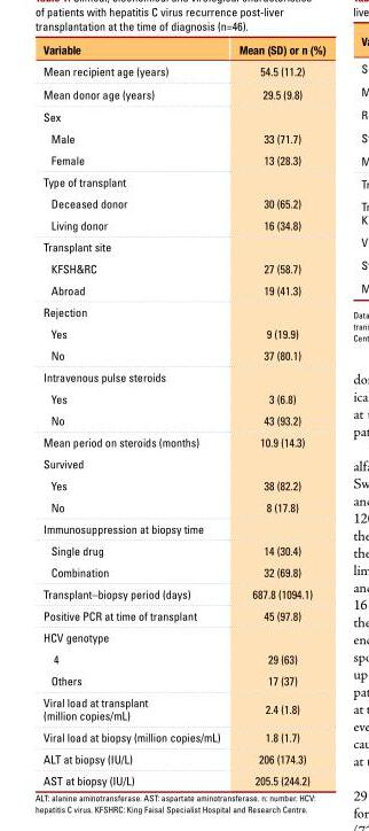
<table><thead><tr><td>Variable</td><td>Mean (SD) or n (%)</td></tr></thead><tbody><tr><td>Mean recipient age (years)</td><td>54.5 (11.2)</td></tr><tr><td>Mean donor age (years)</td><td>29.5 (9.8)</td></tr><tr><td colspan="2">Sex</td></tr><tr><td>Male</td><td>33 (71.7)</td></tr><tr><td>Female</td><td>13 (28.3)</td></tr><tr><td colspan="2">type of transplant</td></tr><tr><td>Deceased donor</td><td>30 (65.2)</td></tr><tr><td>Living donor</td><td>16 (34.8)</td></tr><tr><td colspan="2">transplant site</td></tr><tr><td>KFSh&amp;Rc</td><td>27 (58.7)</td></tr><tr><td>Abroad</td><td>19 (41.3)</td></tr><tr><td colspan="2">Rejection</td></tr><tr><td>yes</td><td>9 (19.9)</td></tr><tr><td>no</td><td>37 (80.1)</td></tr><tr><td colspan="2">Intravenous pulse steroids</td></tr><tr><td>yes</td><td>3 (6.8)</td></tr><tr><td>no</td><td>43 (93.2)</td></tr><tr><td>Mean period on steroids (months)</td><td>10.9 (14.3)</td></tr><tr><td colspan="2">Survived</td></tr><tr><td>yes</td><td>38 (82.2)</td></tr><tr><td>no</td><td>8 (17.8)</td></tr><tr><td colspan="2">Immunosuppression at biopsy time</td></tr><tr><td>Single drug</td><td>14 (30.4)</td></tr><tr><td>combination</td><td>32 (69.8)</td></tr><tr><td>transplant–biopsy period (days)</td><td>687.8 (1094.1)</td></tr><tr><td>positive pcR at time of transplant</td><td>45 (97.8)</td></tr><tr><td colspan="2">hcv genotype</td></tr><tr><td>4</td><td>29 (63)</td></tr><tr><td>others</td><td>17 (37)</td></tr><tr><td>viral load at transplant (million copies/mL)</td><td>2.4 (1.8)</td></tr><tr><td>viral load at biopsy (million copies/mL)</td><td>1.8 (1.7)</td></tr><tr><td>ALt at biopsy (IU/L)</td><td>206 (174.3)</td></tr><tr><td>ASt at biopsy (IU/L)</td><td>205.5 (244.2)</td></tr></tbody></table>